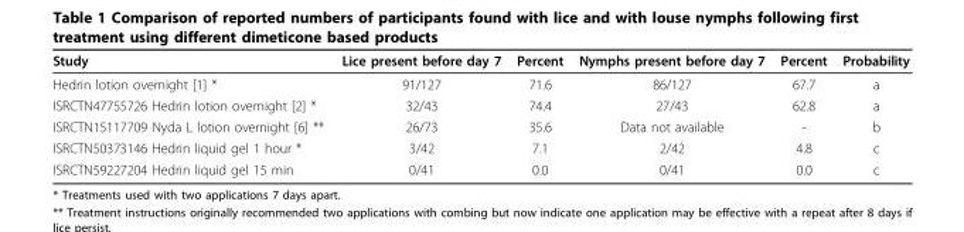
<table><thead><tr><td>Study</td><td>Lice present before day 7</td><td>Percent</td><td>Nymphs present before day 7</td><td>Percent</td><td>Probability</td></tr></thead><tbody><tr><td>Hedrin lotion overnight [1] *</td><td>91/127</td><td>71.6</td><td>86/127</td><td>67.7</td><td>a</td></tr><tr><td>ISRCTN47755726 Hedrin lotion overnight [2] *</td><td>32/43</td><td>74.4</td><td>27/43</td><td>62.8</td><td>a</td></tr><tr><td>ISRCTN15117709 Nyda L lotion overnight [6] **</td><td>26/73</td><td>35.6</td><td>Data not available</td><td>-</td><td>b</td></tr><tr><td>ISRCTN50373146 Hedrin liquid gel 1 hour *</td><td>3/42</td><td>7.1</td><td>2/42</td><td>4.8</td><td>c</td></tr><tr><td>ISRCTN59227204 Hedrin liquid gel 15 min</td><td>0/41</td><td>0.0</td><td>0/41</td><td>0.0</td><td>c</td></tr></tbody></table>